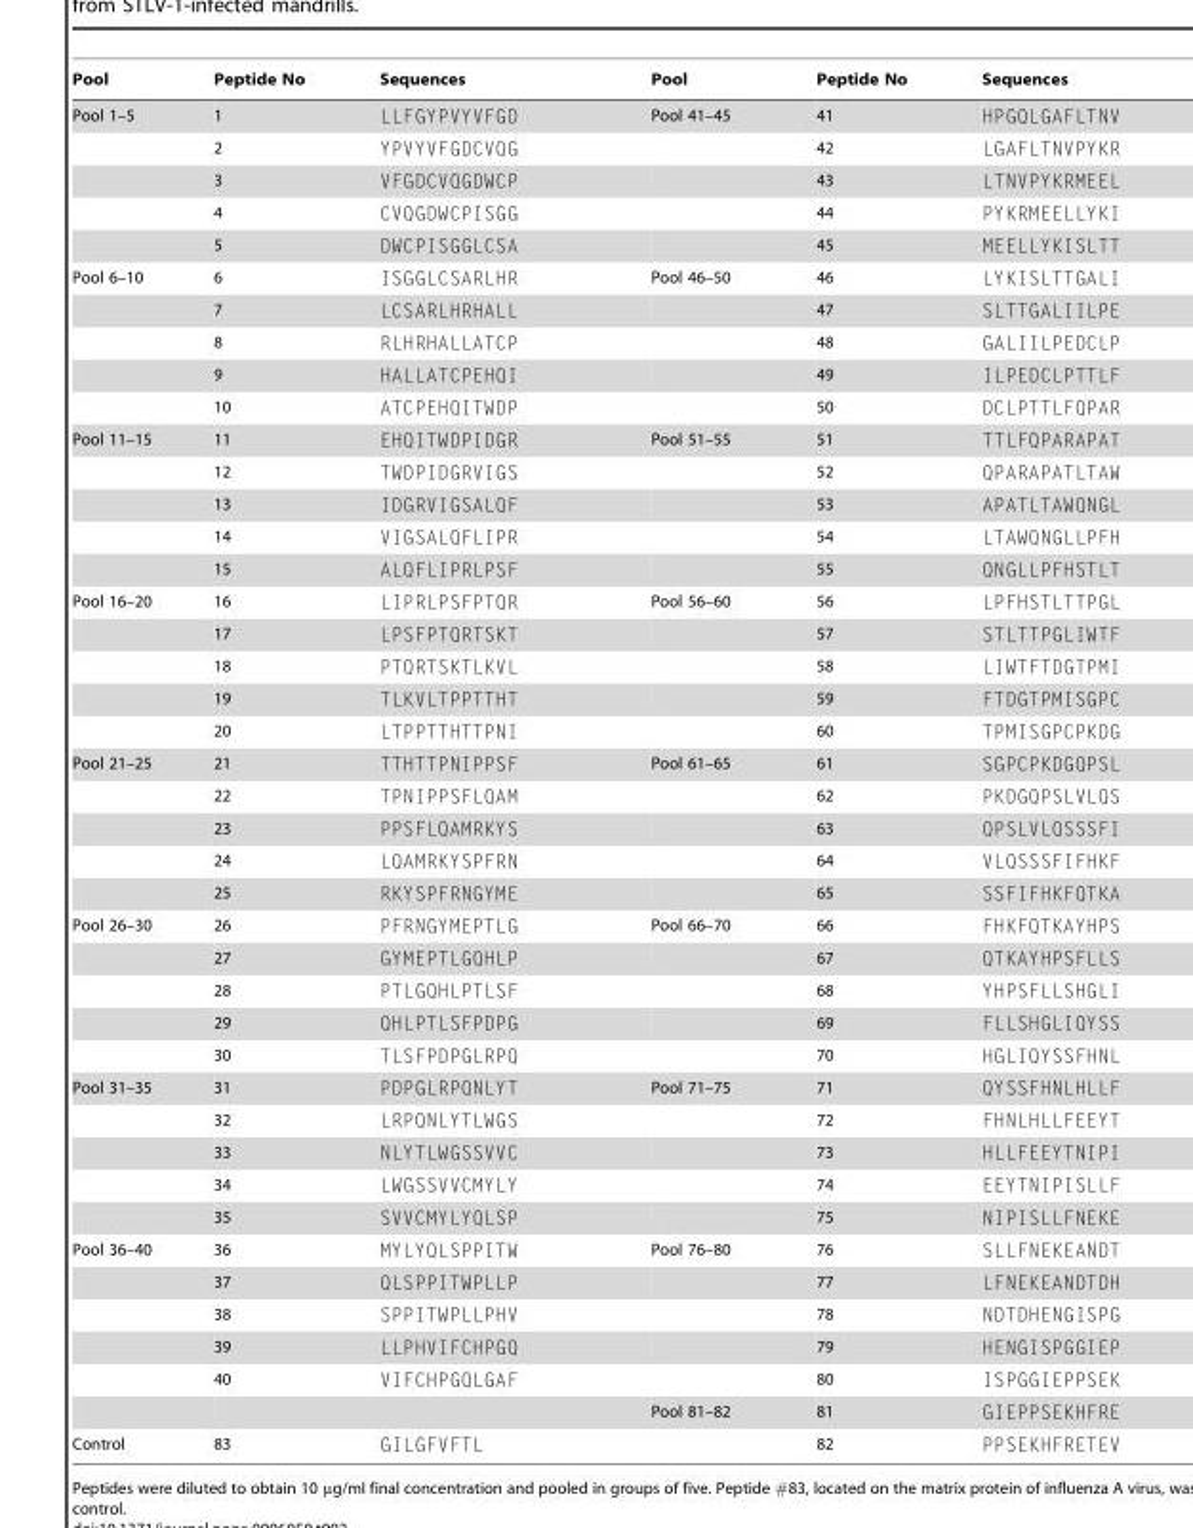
<table><thead><tr><td>Pool</td><td>Peptide No</td><td>Sequences</td><td>Pool</td><td>Peptide No</td><td>Sequences</td></tr></thead><tbody><tr><td rowspan="5">Pool 1–5</td><td>1</td><td>LLFGYPVYVFGD</td><td>Pool 41–45</td><td>41</td><td>HPGQLGAFLTNV</td></tr><tr><td>2</td><td>YPVYVFGDCVQG</td><td></td><td>42</td><td>LGAFLTNVPYKR</td></tr><tr><td>3</td><td>VFGDCVQGDWCP</td><td></td><td>43</td><td>LTNVPYKRMEEL</td></tr><tr><td>4</td><td>CVQGDWCPISGG</td><td></td><td>44</td><td>PYKRMEELLYKI</td></tr><tr><td>5</td><td>DWCPISGGLCSA</td><td></td><td>45</td><td>MEELLYKISLTT</td></tr><tr><td rowspan="5">Pool 6–10</td><td>6</td><td>ISGGLCSARLHR</td><td>Pool 46–50</td><td>46</td><td>LYKISLTTGALI</td></tr><tr><td>7</td><td>LCSARLHRHALL</td><td></td><td>47</td><td>SLTTGALIILPE</td></tr><tr><td>8</td><td>RLHRHALLATCP</td><td></td><td>48</td><td>GALIILPEDCLP</td></tr><tr><td>9</td><td>HALLATCPEHQI</td><td></td><td>49</td><td>ILPEDCLPTTLF</td></tr><tr><td>10</td><td>ATCPEHQITWDP</td><td></td><td>50</td><td>DCLPTTLFQPAR</td></tr><tr><td rowspan="5">Pool 11–15</td><td>11</td><td>EHQITWDPIDGR</td><td>Pool 51–55</td><td>51</td><td>TTLFQPARAPAT</td></tr><tr><td>12</td><td>TWDPIDGRVIGS</td><td></td><td>52</td><td>QPARAPATLTAW</td></tr><tr><td>13</td><td>IDGRVIGSALQF</td><td></td><td>53</td><td>APATLTAWQNGL</td></tr><tr><td>14</td><td>VIGSALQFLIPR</td><td></td><td>54</td><td>LTAWQNGLLPFH</td></tr><tr><td>15</td><td>ALQFLIPRLPSF</td><td></td><td>55</td><td>QNGLLPFHSTLT</td></tr><tr><td rowspan="5">Pool 16–20</td><td>16</td><td>LIPRLPSFPTQR</td><td>Pool 56–60</td><td>56</td><td>LPFHSTLTTPGL</td></tr><tr><td>17</td><td>LPSFPTQRTSKT</td><td></td><td>57</td><td>STLTTPGLIWTF</td></tr><tr><td>18</td><td>PTQRTSKTLKVL</td><td></td><td>58</td><td>LIWTFTDGTPMI</td></tr><tr><td>19</td><td>TLKVLTPPTTHT</td><td></td><td>59</td><td>FTDGTPMISGPC</td></tr><tr><td>20</td><td>LTPPTTHTTPNI</td><td></td><td>60</td><td>TPMISGPCPKDG</td></tr><tr><td rowspan="5">Pool 21–25</td><td>21</td><td>TTHTTPNIPPSF</td><td>Pool 61–65</td><td>61</td><td>SGPCPKDGQPSL</td></tr><tr><td>22</td><td>TPNIPPSFLQAM</td><td></td><td>62</td><td>PKDGQPSLVLQS</td></tr><tr><td>23</td><td>PPSFLQAMRKYS</td><td></td><td>63</td><td>QPSLVLQSSSFI</td></tr><tr><td>24</td><td>LQAMRKYSPFRN</td><td></td><td>64</td><td>VLQSSSFIFHKF</td></tr><tr><td>25</td><td>RKYSPFRNGYME</td><td></td><td>65</td><td>SSFIFHKFQTKA</td></tr><tr><td rowspan="5">Pool 26–30</td><td>26</td><td>PFRNGYMEPTLG</td><td>Pool 66–70</td><td>66</td><td>FHKFQTKAYHPS</td></tr><tr><td>27</td><td>GYMEPTLGQHLP</td><td></td><td>67</td><td>QTKAYHPSFLLS</td></tr><tr><td>28</td><td>PTLGQHLPTLSF</td><td></td><td>68</td><td>YHPSFLLSHGLI</td></tr><tr><td>29</td><td>QHLPTLSFPDPG</td><td></td><td>69</td><td>FLLSHGLIQYSS</td></tr><tr><td>30</td><td>TLSFPDPGLRPQ</td><td></td><td>70</td><td>HGLIQYSSFHNL</td></tr><tr><td rowspan="5">Pool 31–35</td><td>31</td><td>PDPGLRPQNLYT</td><td>Pool 71–75</td><td>71</td><td>QYSSFHNLHLLF</td></tr><tr><td>32</td><td>LRPQNLYTLWGS</td><td></td><td>72</td><td>FHNLHLLFEEYT</td></tr><tr><td>33</td><td>NLYTLWGSSVVC</td><td></td><td>73</td><td>HLLFEEYTNIPI</td></tr><tr><td>34</td><td>LWGSSVVCMYLY</td><td></td><td>74</td><td>EEYTNIPISLLF</td></tr><tr><td>35</td><td>SVVCMYLYQLSP</td><td></td><td>75</td><td>NIPISLLFNEKE</td></tr><tr><td rowspan="6">Pool 36–40</td><td>36</td><td>MYLYQLSPPITW</td><td>Pool 76–80</td><td>76</td><td>SLLFNEKEANDT</td></tr><tr><td>37</td><td>QLSPPITWPLLP</td><td></td><td>77</td><td>LFNEKEANDTDH</td></tr><tr><td>38</td><td>SPPITWPLLPHV</td><td></td><td>78</td><td>NDTDHENGISPG</td></tr><tr><td>39</td><td>LLPHVIFCHPGQ</td><td></td><td>79</td><td>HENGISPGGIEP</td></tr><tr><td>40</td><td>VIFCHPGQLGAF</td><td></td><td>80</td><td>ISPGGIEPPSEK</td></tr><tr><td></td><td></td><td>Pool 81–82</td><td>81</td><td>GIEPPSEKHFRE</td></tr><tr><td>Control</td><td>83</td><td>GILGFVFTL</td><td></td><td>82</td><td>PPSEKHFRETEV</td></tr></tbody></table>